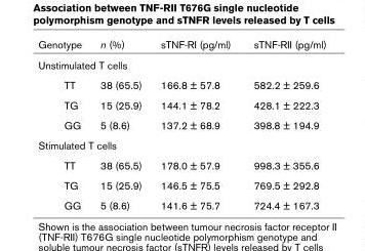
<table><thead><tr><td>Genotype</td><td>n (%)</td><td>sTNF-RI (pg/ml)</td><td>sTNF-RII (pg/ml)</td></tr></thead><tbody><tr><td colspan="4">Unstimulated T cells</td></tr><tr><td>TT</td><td>38 (65.5)</td><td>166.8 ± 57.8</td><td>582.2 ± 259.6</td></tr><tr><td>TG</td><td>15 (25.9)</td><td>144.1 ± 78.2</td><td>428.1 ± 222.3</td></tr><tr><td>GG</td><td>5 (8.6)</td><td>137.2 ± 68.9</td><td>398.8 ± 194.9</td></tr><tr><td colspan="4">Stimulated T cells</td></tr><tr><td>TT</td><td>38 (65.5)</td><td>178.0 ± 57.9</td><td>998.3 ± 355.6</td></tr><tr><td>TG</td><td>15 (25.9)</td><td>146.5 ± 75.5</td><td>769.5 ± 292.8</td></tr><tr><td>GG</td><td>5 (8.6)</td><td>141.6 ± 75.7</td><td>724.4 ± 167.3</td></tr></tbody></table>